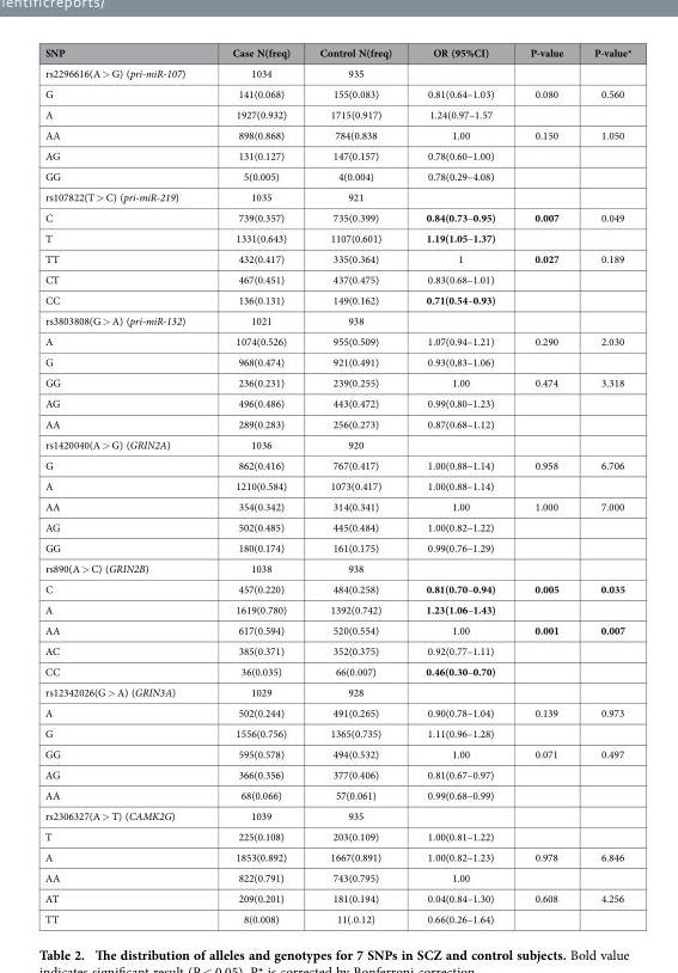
<table><thead><tr><td>SNP</td><td>Case N(freq)</td><td>Control N(freq)</td><td>OR (95%CI)</td><td>P-value</td><td>P-value*</td></tr></thead><tbody><tr><td>rs2296616(A &gt; G) (pri-miR-107)</td><td>1034</td><td>935</td><td></td><td></td><td></td></tr><tr><td>G</td><td>141(0.068)</td><td>155(0.083)</td><td>0.81(0.64–1.03)</td><td>0.080</td><td>0.560</td></tr><tr><td>A</td><td>1927(0.932)</td><td>1715(0.917)</td><td>1.24(0.97–1.57</td><td></td><td></td></tr><tr><td>AA</td><td>898(0.868)</td><td>784(0.838</td><td>1.00</td><td>0.150</td><td>1.050</td></tr><tr><td>AG</td><td>131(0.127)</td><td>147(0.157)</td><td>0.78(0.60–1.00)</td><td></td><td></td></tr><tr><td>GG</td><td>5(0.005)</td><td>4(0.004)</td><td>0.78(0.29–4.08)</td><td></td><td></td></tr><tr><td>rs107822(T &gt; C) (pri-miR-219)</td><td>1035</td><td>921</td><td></td><td></td><td></td></tr><tr><td>C</td><td>739(0.357)</td><td>735(0.399)</td><td>0.84(0.73–0.95)</td><td>0.007</td><td>0.049</td></tr><tr><td>T</td><td>1331(0.643)</td><td>1107(0.601)</td><td>1.19(1.05–1.37)</td><td></td><td></td></tr><tr><td>TT</td><td>432(0.417)</td><td>335(0.364)</td><td>1</td><td>0.027</td><td>0.189</td></tr><tr><td>CT</td><td>467(0.451)</td><td>437(0.475)</td><td>0.83(0.68–1.01)</td><td></td><td></td></tr><tr><td>CC</td><td>136(0.131)</td><td>149(0.162)</td><td>0.71(0.54–0.93)</td><td></td><td></td></tr><tr><td>rs3803808(G &gt; A) (pri-miR-132)</td><td>1021</td><td>938</td><td></td><td></td><td></td></tr><tr><td>A</td><td>1074(0.526)</td><td>955(0.509)</td><td>1.07(0.94–1.21)</td><td>0.290</td><td>2.030</td></tr><tr><td>G</td><td>968(0.474)</td><td>921(0.491)</td><td>0.93(0,83–1.06)</td><td></td><td></td></tr><tr><td>GG</td><td>236(0.231)</td><td>239(0.255)</td><td>1.00</td><td>0.474</td><td>3.318</td></tr><tr><td>AG</td><td>496(0.486)</td><td>443(0.472)</td><td>0.99(0.80–1.23)</td><td></td><td></td></tr><tr><td>AA</td><td>289(0.283)</td><td>256(0.273)</td><td>0.87(0.68–1.12)</td><td></td><td></td></tr><tr><td>rs1420040(A &gt; G) (GRIN2A)</td><td>1036</td><td>920</td><td></td><td></td><td></td></tr><tr><td>G</td><td>862(0.416)</td><td>767(0.417)</td><td>1.00(0.88–1.14)</td><td>0.958</td><td>6.706</td></tr><tr><td>A</td><td>1210(0.584)</td><td>1073(0.417)</td><td>1.00(0.88–1.14)</td><td></td><td></td></tr><tr><td>AA</td><td>354(0.342)</td><td>314(0.341)</td><td>1.00</td><td>1.000</td><td>7.000</td></tr><tr><td>AG</td><td>502(0.485)</td><td>445(0.484)</td><td>1.00(0.82–1.22)</td><td></td><td></td></tr><tr><td>GG</td><td>180(0.174)</td><td>161(0.175)</td><td>0.99(0.76–1.29)</td><td></td><td></td></tr><tr><td>rs890(A &gt; C) (GRIN2B)</td><td>1038</td><td>938</td><td></td><td></td><td></td></tr><tr><td>C</td><td>457(0.220)</td><td>484(0.258)</td><td>0.81(0.70–0.94)</td><td>0.005</td><td>0.035</td></tr><tr><td>A</td><td>1619(0.780)</td><td>1392(0.742)</td><td>1.23(1.06–1.43)</td><td></td><td></td></tr><tr><td>AA</td><td>617(0.594)</td><td>520(0.554)</td><td>1.00</td><td>0.001</td><td>0.007</td></tr><tr><td>AC</td><td>385(0.371)</td><td>352(0.375)</td><td>0.92(0.77–1.11)</td><td></td><td></td></tr><tr><td>CC</td><td>36(0.035)</td><td>66(0.007)</td><td>0.46(0.30–0.70)</td><td></td><td></td></tr><tr><td>rs12342026(G &gt; A) (GRIN3A)</td><td>1029</td><td>928</td><td></td><td></td><td></td></tr><tr><td>A</td><td>502(0.244)</td><td>491(0.265)</td><td>0.90(0.78–1.04)</td><td>0.139</td><td>0.973</td></tr><tr><td>G</td><td>1556(0.756)</td><td>1365(0.735)</td><td>1.11(0.96–1.28)</td><td></td><td></td></tr><tr><td>GG</td><td>595(0.578)</td><td>494(0.532)</td><td>1.00</td><td>0.071</td><td>0.497</td></tr><tr><td>AG</td><td>366(0.356)</td><td>377(0.406)</td><td>0.81(0.67–0.97)</td><td></td><td></td></tr><tr><td>AA</td><td>68(0.066)</td><td>57(0.061)</td><td>0.99(0.68–0.99)</td><td></td><td></td></tr><tr><td>rs2306327(A &gt; T) (CAMK2G)</td><td>1039</td><td>935</td><td></td><td></td><td></td></tr><tr><td>T</td><td>225(0.108)</td><td>203(0.109)</td><td>1.00(0.81–1.22)</td><td></td><td></td></tr><tr><td>A</td><td>1853(0.892)</td><td>1667(0.891)</td><td>1.00(0.82–1.23)</td><td>0.978</td><td>6.846</td></tr><tr><td>AA</td><td>822(0.791)</td><td>743(0.795)</td><td>1.00</td><td></td><td></td></tr><tr><td>AT</td><td>209(0.201)</td><td>181(0.194)</td><td>0.04(0.84–1.30)</td><td>0.608</td><td>4.256</td></tr><tr><td>TT</td><td>8(0.008)</td><td>11(.0.12)</td><td>0.66(0.26–1.64)</td><td></td><td></td></tr></tbody></table>